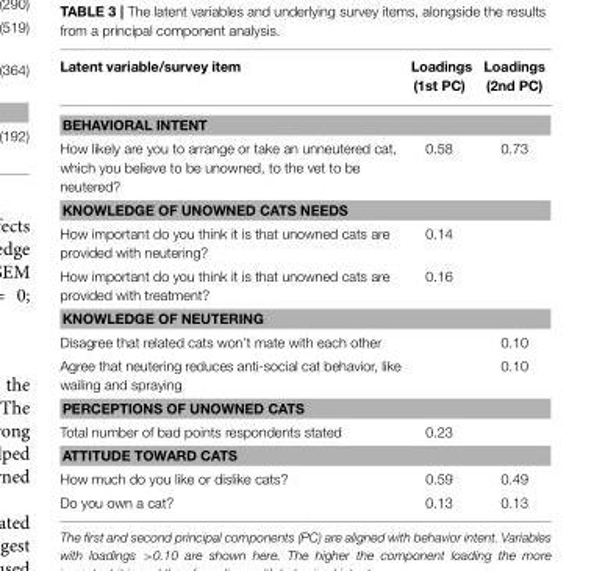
<table><thead><tr><td>Latent variable/survey item</td><td>Loadings (1st PC)</td><td>Loadings (2nd PC)</td></tr></thead><tbody><tr><td colspan="3">BEHAVIORAL INTENT</td></tr><tr><td>How likely are you to arrange or take an unneutered cat, which you believe to be unowned, to the vet to be neutered?</td><td>0.58</td><td>0.73</td></tr><tr><td colspan="3">KNOWLEDGE OF UNOWNED CATS NEEDS</td></tr><tr><td>How important do you think it is that unowned cats are provided with neutering?</td><td>0.14</td><td></td></tr><tr><td>How important do you think it is that unowned cats are provided with treatment?</td><td>0.16</td><td></td></tr><tr><td colspan="3">KNOWLEDGE OF NEUTERING</td></tr><tr><td>Disagree that related cats won’t mate with each other</td><td></td><td>0.10</td></tr><tr><td>Agree that neutering reduces anti-social cat behavior, like wailing and spraying</td><td></td><td>0.10</td></tr><tr><td colspan="3">PERCEPTIONS OF UNOWNED CATS</td></tr><tr><td>Total number of bad points respondents stated</td><td>0.23</td><td></td></tr><tr><td colspan="3">ATTITUDE TOWARD CATS</td></tr><tr><td>How much do you like or dislike cats?</td><td>0.59</td><td>0.49</td></tr><tr><td>Do you own a cat?</td><td>0.13</td><td>0.13</td></tr></tbody></table>